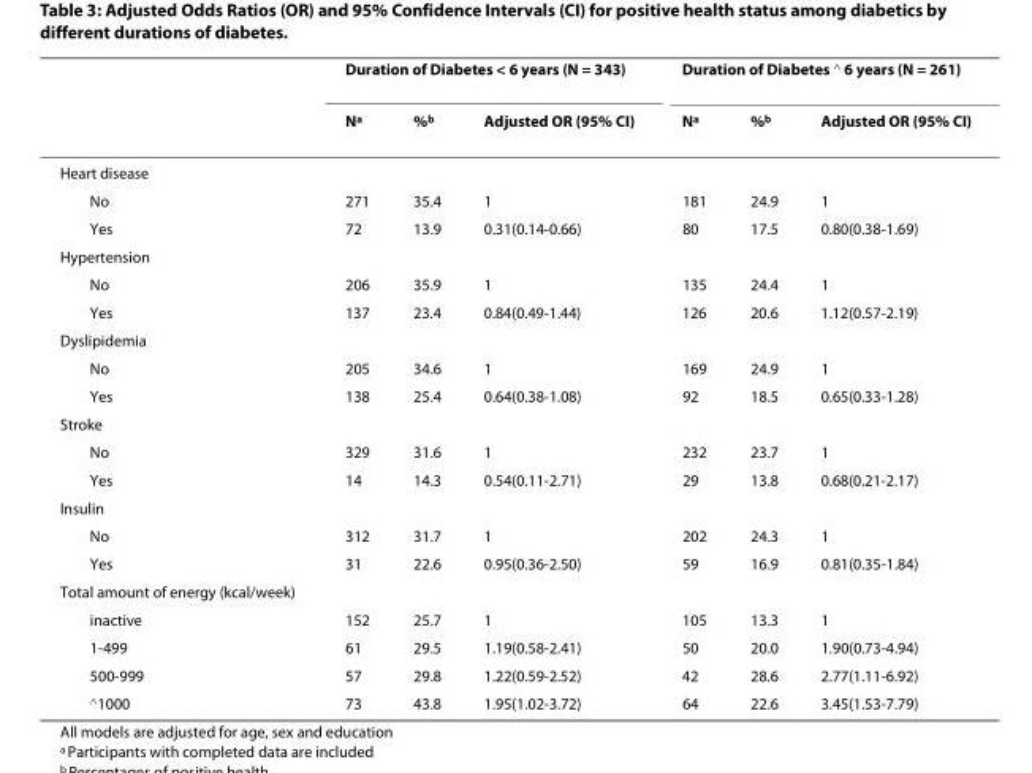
<table><thead><tr><td rowspan="2"></td><td colspan="3">Duration of Diabetes &lt; 6 years (N = 343)</td><td colspan="3">Duration of Diabetes ≧ 6 years (N = 261)</td></tr><tr><td>N<sup>a</sup></td><td>%<sup>b</sup></td><td>Adjusted OR (95% CI)</td><td>N<sup>a</sup></td><td>%<sup>b</sup></td><td>Adjusted OR (95% CI)</td></tr></thead><tbody><tr><td colspan="7">Heart disease</td></tr><tr><td>No</td><td>271</td><td>35.4</td><td>1</td><td>181</td><td>24.9</td><td>1</td></tr><tr><td>Yes</td><td>72</td><td>13.9</td><td>0.31(0.14-0.66)</td><td>80</td><td>17.5</td><td>0.80(0.38-1.69)</td></tr><tr><td colspan="7">Hypertension</td></tr><tr><td>No</td><td>206</td><td>35.9</td><td>1</td><td>135</td><td>24.4</td><td>1</td></tr><tr><td>Yes</td><td>137</td><td>23.4</td><td>0.84(0.49-1.44)</td><td>126</td><td>20.6</td><td>1.12(0.57-2.19)</td></tr><tr><td colspan="7">Dyslipidemia</td></tr><tr><td>No</td><td>205</td><td>34.6</td><td>1</td><td>169</td><td>24.9</td><td>1</td></tr><tr><td>Yes</td><td>138</td><td>25.4</td><td>0.64(0.38-1.08)</td><td>92</td><td>18.5</td><td>0.65(0.33-1.28)</td></tr><tr><td colspan="7">Stroke</td></tr><tr><td>No</td><td>329</td><td>31.6</td><td>1</td><td>232</td><td>23.7</td><td>1</td></tr><tr><td>Yes</td><td>14</td><td>14.3</td><td>0.54(0.11-2.71)</td><td>29</td><td>13.8</td><td>0.68(0.21-2.17)</td></tr><tr><td colspan="7">Insulin</td></tr><tr><td>No</td><td>312</td><td>31.7</td><td>1</td><td>202</td><td>24.3</td><td>1</td></tr><tr><td>Yes</td><td>31</td><td>22.6</td><td>0.95(0.36-2.50)</td><td>59</td><td>16.9</td><td>0.81(0.35-1.84)</td></tr><tr><td colspan="7">Total amount of energy (kcal/week)</td></tr><tr><td>inactive</td><td>152</td><td>25.7</td><td>1</td><td>105</td><td>13.3</td><td>1</td></tr><tr><td>1-499</td><td>61</td><td>29.5</td><td>1.19(0.58-2.41)</td><td>50</td><td>20.0</td><td>1.90(0.73-4.94)</td></tr><tr><td>500-999</td><td>57</td><td>29.8</td><td>1.22(0.59-2.52)</td><td>42</td><td>28.6</td><td>2.77(1.11-6.92)</td></tr><tr><td>≧1000</td><td>73</td><td>43.8</td><td>1.95(1.02-3.72)</td><td>64</td><td>22.6</td><td>3.45(1.53-7.79)</td></tr></tbody></table>